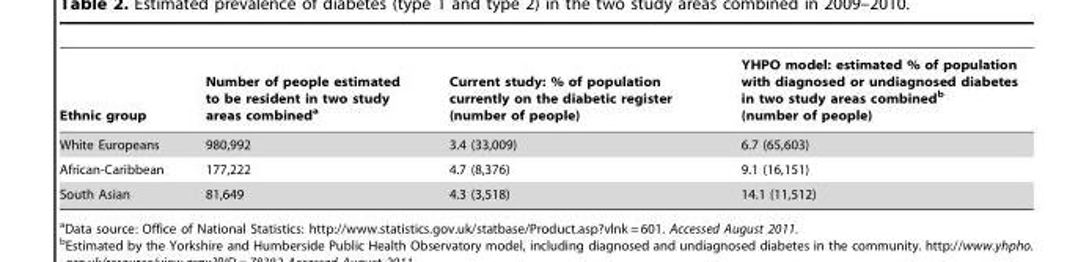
<table><thead><tr><td>Ethnic group</td><td>Number of people estimated to be resident in two study areas combined<sup>a</sup></td><td>Current study: % of population currently on the diabetic register (number of people)</td><td>YHPO model: estimated % of population with diagnosed or undiagnosed diabetes in two study areas combined<sup>b</sup> (number of people)</td></tr></thead><tbody><tr><td>White Europeans</td><td>980,992</td><td>3.4 (33,009)</td><td>6.7 (65,603)</td></tr><tr><td>African-Caribbean</td><td>177,222</td><td>4.7 (8,376)</td><td>9.1 (16,151)</td></tr><tr><td>South Asian</td><td>81,649</td><td>4.3 (3,518)</td><td>14.1 (11,512)</td></tr></tbody></table>